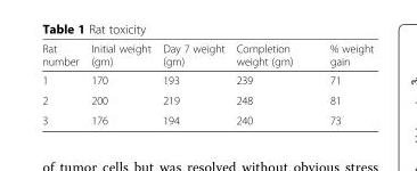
<table><thead><tr><td>Rat number</td><td>Initial weight (gm)</td><td>Day 7 weight (gm)</td><td>Completion weight (gm)</td><td>% weight gain</td></tr></thead><tbody><tr><td>1</td><td>170</td><td>193</td><td>239</td><td>71</td></tr><tr><td>2</td><td>200</td><td>219</td><td>248</td><td>81</td></tr><tr><td>3</td><td>176</td><td>194</td><td>240</td><td>73</td></tr></tbody></table>